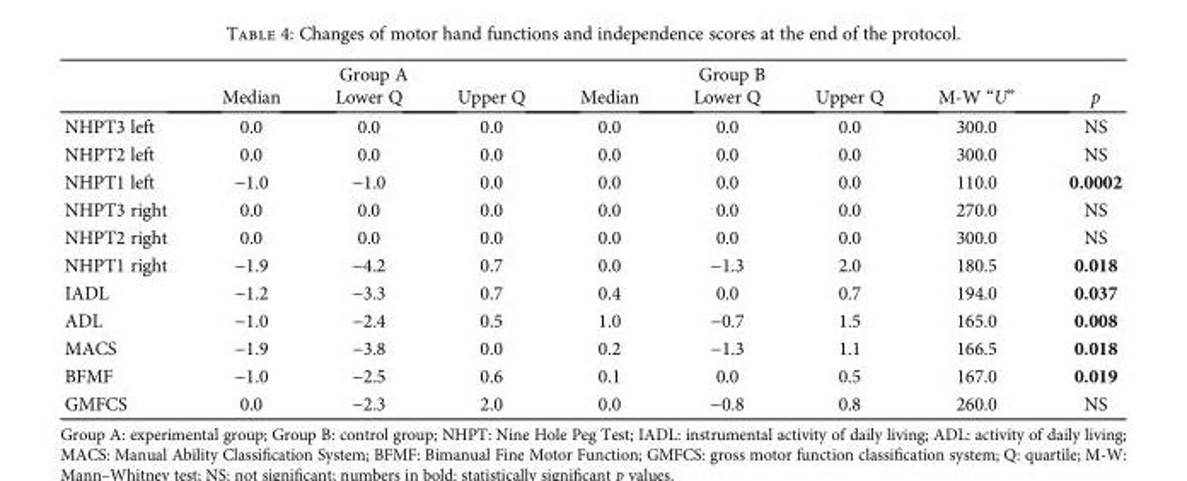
<table><thead><tr><td rowspan="2"></td><td colspan="3">Group A</td><td colspan="3">Group B</td><td rowspan="2">M-W “U”</td><td rowspan="2">p</td></tr><tr><td>Median</td><td>Lower Q</td><td>Upper Q</td><td>Median</td><td>Lower Q</td><td>Upper Q</td></tr></thead><tbody><tr><td>NHPT3 left</td><td>0.0</td><td>0.0</td><td>0.0</td><td>0.0</td><td>0.0</td><td>0.0</td><td>300.0</td><td>NS</td></tr><tr><td>NHPT2 left</td><td>0.0</td><td>0.0</td><td>0.0</td><td>0.0</td><td>0.0</td><td>0.0</td><td>300.0</td><td>NS</td></tr><tr><td>NHPT1 left</td><td>−1.0</td><td>−1.0</td><td>0.0</td><td>0.0</td><td>0.0</td><td>0.0</td><td>110.0</td><td>0.0002</td></tr><tr><td>NHPT3 right</td><td>0.0</td><td>0.0</td><td>0.0</td><td>0.0</td><td>0.0</td><td>0.0</td><td>270.0</td><td>NS</td></tr><tr><td>NHPT2 right</td><td>0.0</td><td>0.0</td><td>0.0</td><td>0.0</td><td>0.0</td><td>0.0</td><td>300.0</td><td>NS</td></tr><tr><td>NHPT1 right</td><td>−1.9</td><td>−4.2</td><td>0.7</td><td>0.0</td><td>−1.3</td><td>2.0</td><td>180.5</td><td>0.018</td></tr><tr><td>IADL</td><td>−1.2</td><td>−3.3</td><td>0.7</td><td>0.4</td><td>0.0</td><td>0.7</td><td>194.0</td><td>0.037</td></tr><tr><td>ADL</td><td>−1.0</td><td>−2.4</td><td>0.5</td><td>1.0</td><td>−0.7</td><td>1.5</td><td>165.0</td><td>0.008</td></tr><tr><td>MACS</td><td>−1.9</td><td>−3.8</td><td>0.0</td><td>0.2</td><td>−1.3</td><td>1.1</td><td>166.5</td><td>0.018</td></tr><tr><td>BFMF</td><td>−1.0</td><td>−2.5</td><td>0.6</td><td>0.1</td><td>0.0</td><td>0.5</td><td>167.0</td><td>0.019</td></tr><tr><td>GMFCS</td><td>0.0</td><td>−2.3</td><td>2.0</td><td>0.0</td><td>−0.8</td><td>0.8</td><td>260.0</td><td>NS</td></tr></tbody></table>